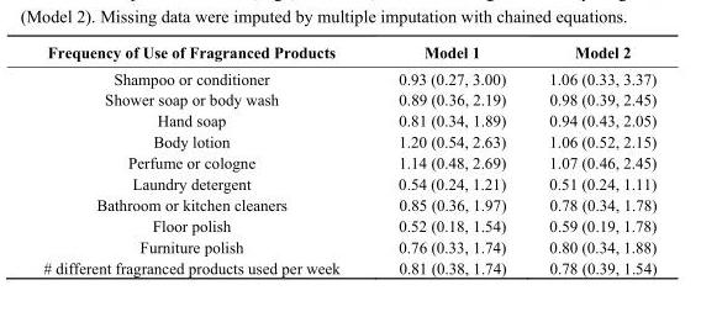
<table><thead><tr><td>Frequency of Use of Fragranced Products</td><td>Model 1</td><td>Model 2</td></tr></thead><tbody><tr><td>Shampoo or conditioner</td><td>0.93 (0.27, 3.00)</td><td>1.06 (0.33, 3.37)</td></tr><tr><td>Shower soap or body wash</td><td>0.89 (0.36, 2.19)</td><td>0.98 (0.39, 2.45)</td></tr><tr><td>Hand soap</td><td>0.81 (0.34, 1.89)</td><td>0.94 (0.43, 2.05)</td></tr><tr><td>Body lotion</td><td>1.20 (0.54, 2.63)</td><td>1.06 (0.52, 2.15)</td></tr><tr><td>Perfume or cologne</td><td>1.14 (0.48, 2.69)</td><td>1.07 (0.46, 2.45)</td></tr><tr><td>Laundry detergent</td><td>0.54 (0.24, 1.21)</td><td>0.51 (0.24, 1.11)</td></tr><tr><td>Bathroom or kitchen cleaners</td><td>0.85 (0.36, 1.97)</td><td>0.78 (0.34, 1.78)</td></tr><tr><td>Floor polish</td><td>0.52 (0.18, 1.54)</td><td>0.59 (0.19, 1.78)</td></tr><tr><td>Furniture polish</td><td>0.76 (0.33, 1.74)</td><td>0.80 (0.34, 1.88)</td></tr><tr><td># different fragranced products used per week</td><td>0.81 (0.38, 1.74)</td><td>0.78 (0.39, 1.54)</td></tr></tbody></table>